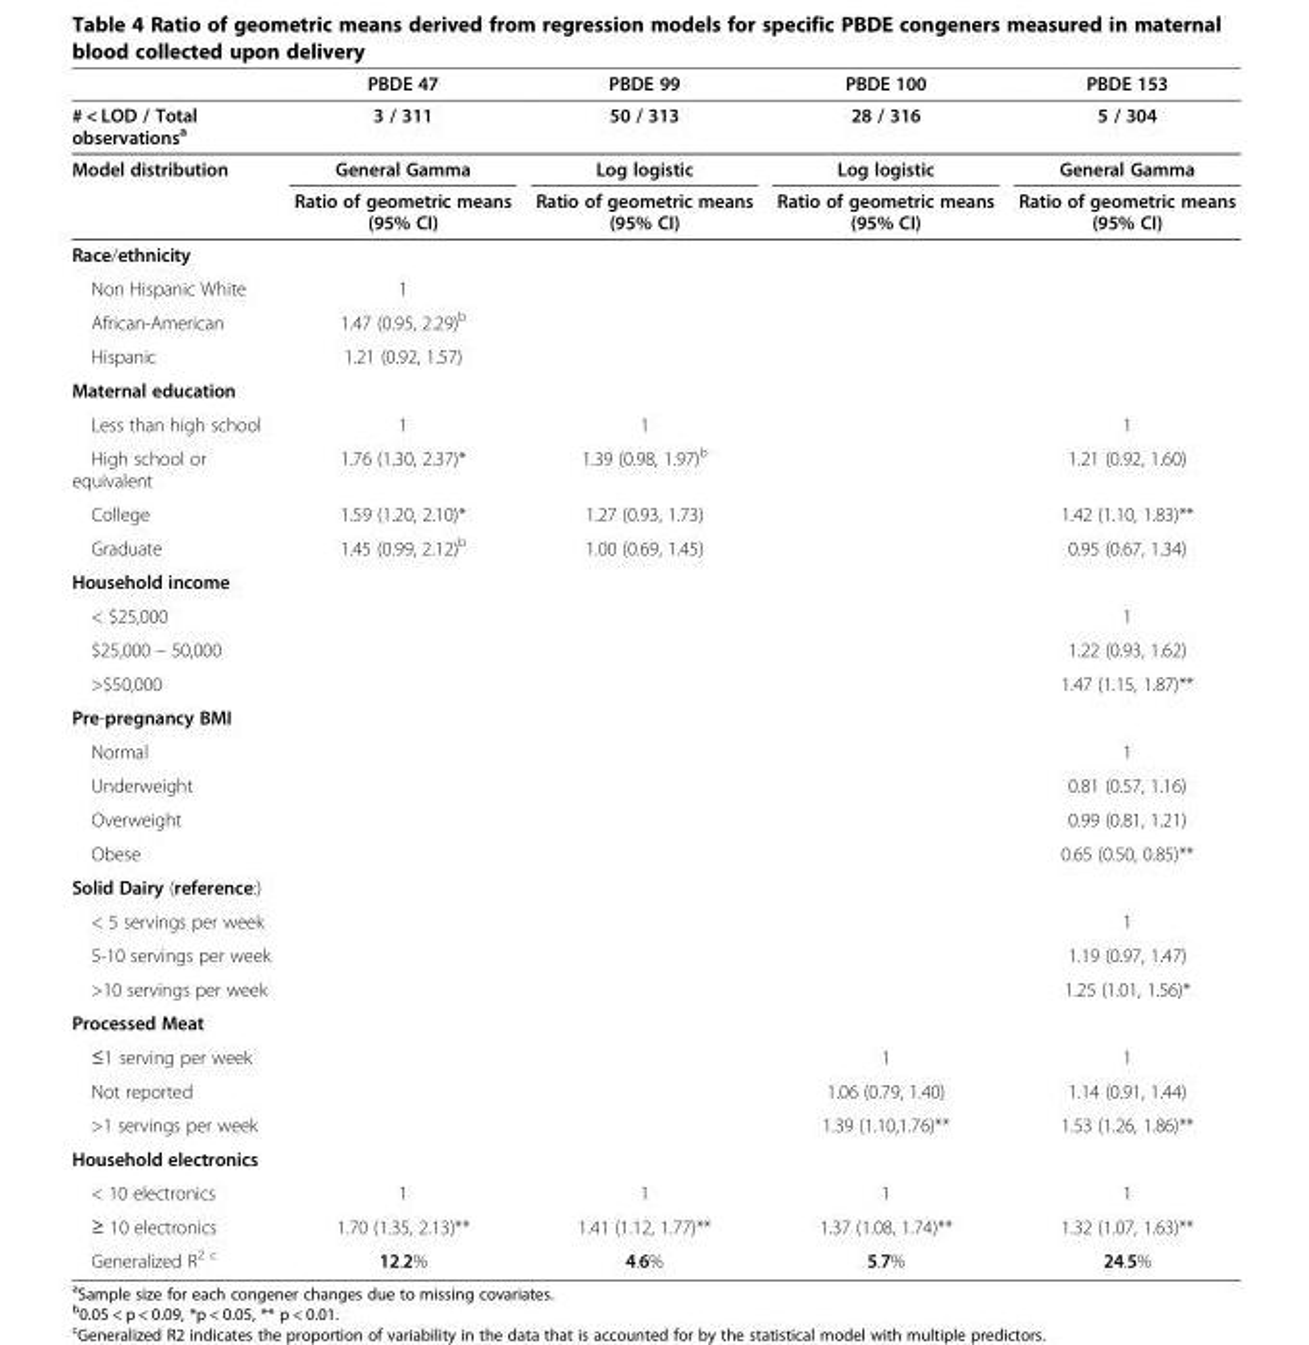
<table><thead><tr><td rowspan="4"># &lt; LOD / Total observations<sup>a</sup> Model distribution</td><td rowspan="4">PBDE 47 3 / 311 General Gamma Ratio of geometric means (95% CI)</td><td rowspan="4">PBDE 99 50 / 313 Log logistic Ratio of geometric means (95% CI)</td><td rowspan="4">PBDE 100 28 / 316 Log logistic Ratio of geometric means (95% CI)</td><td rowspan="4">PBDE 153 5 / 304 General Gamma Ratio of geometric means (95% CI)</td></tr><tr></tr><tr></tr><tr></tr></thead><tbody><tr><td colspan="5">Race/ethnicity</td></tr><tr><td>Non Hispanic White</td><td>1</td><td></td><td></td><td></td></tr><tr><td>African-American</td><td>1.47 (0.95, 2.29)<sup>b</sup></td><td></td><td></td><td></td></tr><tr><td>Hispanic</td><td>1.21 (0.92, 1.57)</td><td></td><td></td><td></td></tr><tr><td colspan="5">Maternal education</td></tr><tr><td>Less than high school</td><td>1</td><td>1</td><td></td><td>1</td></tr><tr><td>High school or equivalent</td><td>1.76 (1.30, 2.37)*</td><td>1.39 (0.98, 1.97)<sup>b</sup></td><td></td><td>1.21 (0.92, 1.60)</td></tr><tr><td>College</td><td>1.59 (1.20, 2.10)*</td><td>1.27 (0.93, 1.73)</td><td></td><td>1.42 (1.10, 1.83)**</td></tr><tr><td>Graduate</td><td>1.45 (0.99, 2.12)<sup>b</sup></td><td>1.00 (0.69, 1.45)</td><td></td><td>0.95 (0.67, 1.34)</td></tr><tr><td colspan="5">Household income</td></tr><tr><td>&lt; $25,000</td><td></td><td></td><td></td><td>1</td></tr><tr><td>$25,000 – 50,000</td><td></td><td></td><td></td><td>1.22 (0.93, 1.62)</td></tr><tr><td>&gt;$50,000</td><td></td><td></td><td></td><td>1.47 (1.15, 1.87)**</td></tr><tr><td colspan="5">Pre-pregnancy BMI</td></tr><tr><td>Normal</td><td></td><td></td><td></td><td>1</td></tr><tr><td>Underweight</td><td></td><td></td><td></td><td>0.81 (0.57, 1.16)</td></tr><tr><td>Overweight</td><td></td><td></td><td></td><td>0.99 (0.81, 1.21)</td></tr><tr><td>Obese</td><td></td><td></td><td></td><td>0.65 (0.50, 0.85)**</td></tr><tr><td colspan="5">Solid Dairy (reference:)</td></tr><tr><td>&lt; 5 servings per week</td><td></td><td></td><td></td><td>1</td></tr><tr><td>5-10 servings per week</td><td></td><td></td><td></td><td>1.19 (0.97, 1.47)</td></tr><tr><td>&gt;10 servings per week</td><td></td><td></td><td></td><td>1.25 (1.01, 1.56)*</td></tr><tr><td colspan="5">Processed Meat</td></tr><tr><td>≤1 serving per week</td><td></td><td></td><td>1</td><td>1</td></tr><tr><td>Not reported</td><td></td><td></td><td>1.06 (0.79, 1.40)</td><td>1.14 (0.91, 1.44)</td></tr><tr><td>&gt;1 servings per week</td><td></td><td></td><td>1.39 (1.10,1.76)**</td><td>1.53 (1.26, 1.86)**</td></tr><tr><td colspan="5">Household electronics</td></tr><tr><td>&lt; 10 electronics</td><td>1</td><td>1</td><td>1</td><td>1</td></tr><tr><td>≥ 10 electronics</td><td>1.70 (1.35, 2.13)**</td><td>1.41 (1.12, 1.77)**</td><td>1.37 (1.08, 1.74)**</td><td>1.32 (1.07, 1.63)**</td></tr><tr><td>Generalized R<sup>2 c</sup></td><td>12.2%</td><td>4.6%</td><td>5.7%</td><td>24.5%</td></tr></tbody></table>